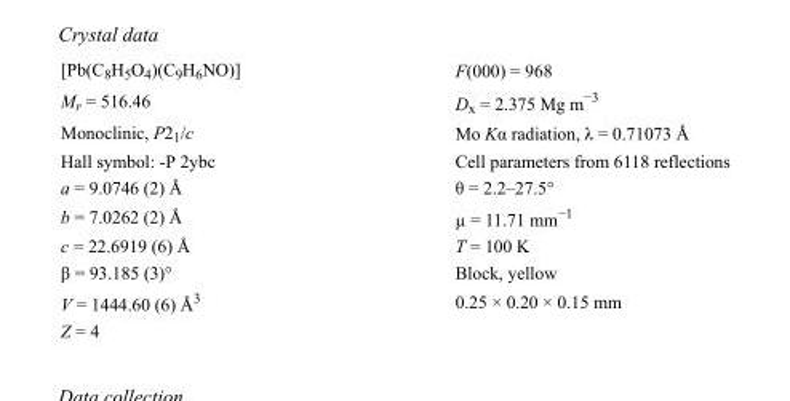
<table><tbody><tr><td>[Pb(C<sub>8</sub>H<sub>5</sub>O<sub>4</sub>)(C<sub>9</sub>H<sub>6</sub>NO)]</td><td>F(000) = 968</td></tr><tr><td>M<sub>r</sub> = 516.46</td><td>D<sub>x</sub> = 2.375 Mg m<sup>−3</sup></td></tr><tr><td>Monoclinic, P2<sub>1</sub>/c</td><td>Mo Kα radiation, λ = 0.71073 Å</td></tr><tr><td>Hall symbol: -P 2ybc</td><td>Cell parameters from 6118 reflections</td></tr><tr><td>a = 9.0746 (2) Å</td><td>θ = 2.2–27.5°</td></tr><tr><td>b = 7.0262 (2) Å</td><td>µ = 11.71 mm<sup>−1</sup></td></tr><tr><td>c = 22.6919 (6) Å</td><td>T = 100 K</td></tr><tr><td>β = 93.185 (3)°</td><td>Block, yellow</td></tr><tr><td>V = 1444.60 (6) Å<sup>3</sup></td><td>0.25 × 0.20 × 0.15 mm</td></tr><tr><td>Z = 4</td><td></td></tr></tbody></table>